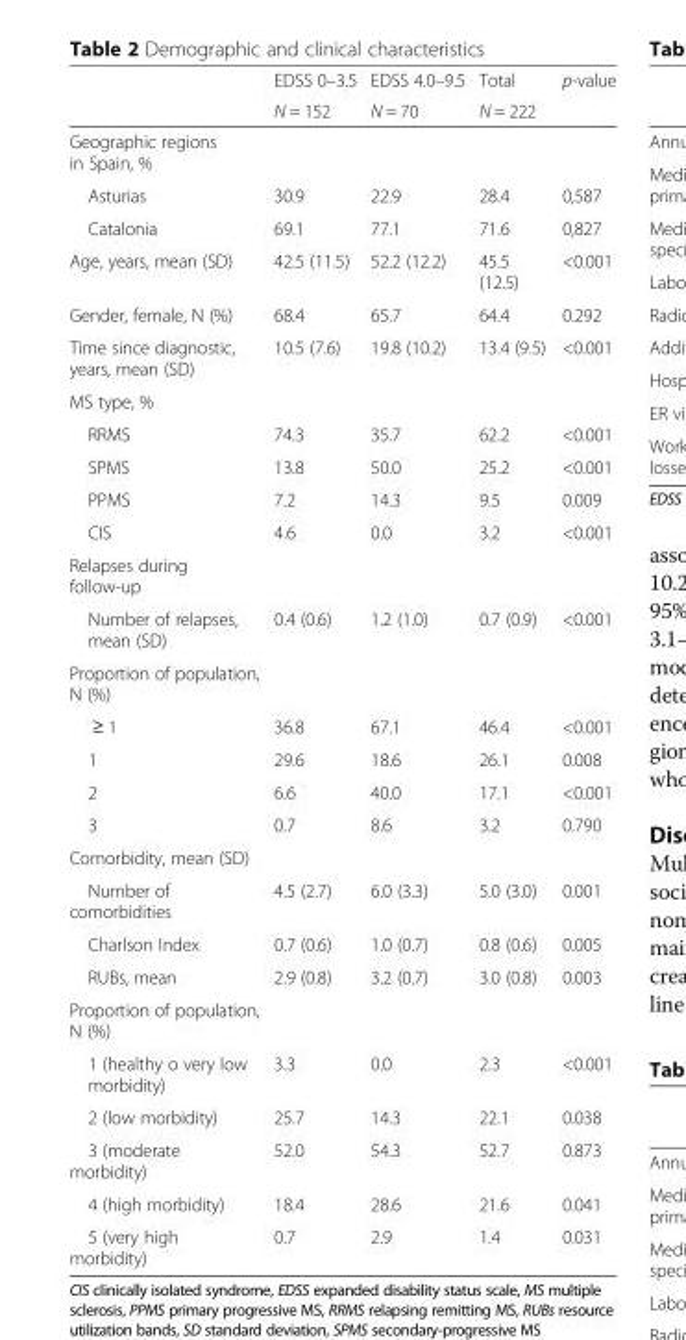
<table><thead><tr><td rowspan="2"></td><td rowspan="2">EDSS 0–3.5 N = 152</td><td rowspan="2">EDSS 4.0–9.5 N = 70</td><td rowspan="2">Total N = 222</td><td rowspan="2">p-value</td></tr><tr></tr></thead><tbody><tr><td colspan="5">Geographic regions in Spain, %</td></tr><tr><td>Asturias</td><td>30.9</td><td>22.9</td><td>28.4</td><td>0,587</td></tr><tr><td>Catalonia</td><td>69.1</td><td>77.1</td><td>71.6</td><td>0,827</td></tr><tr><td>Age, years, mean (SD)</td><td>42.5 (11.5)</td><td>52.2 (12.2)</td><td>45.5 (12.5)</td><td>&lt;0.001</td></tr><tr><td>Gender, female, N (%)</td><td>68.4</td><td>65.7</td><td>64.4</td><td>0.292</td></tr><tr><td>Time since diagnostic, years, mean (SD)</td><td>10.5 (7.6)</td><td>19.8 (10.2)</td><td>13.4 (9.5)</td><td>&lt;0.001</td></tr><tr><td colspan="5">MS type, %</td></tr><tr><td>RRMS</td><td>74.3</td><td>35.7</td><td>62.2</td><td>&lt;0.001</td></tr><tr><td>SPMS</td><td>13.8</td><td>50.0</td><td>25.2</td><td>&lt;0.001</td></tr><tr><td>PPMS</td><td>7.2</td><td>14.3</td><td>9.5</td><td>0.009</td></tr><tr><td>CIS</td><td>4.6</td><td>0.0</td><td>3.2</td><td>&lt;0.001</td></tr><tr><td colspan="5">Relapses during follow-up</td></tr><tr><td>Number of relapses, mean (SD)</td><td>0.4 (0.6)</td><td>1.2 (1.0)</td><td>0.7 (0.9)</td><td>&lt;0.001</td></tr><tr><td colspan="5">Proportion of population, N (%)</td></tr><tr><td>≥ 1</td><td>36.8</td><td>67.1</td><td>46.4</td><td>&lt;0.001</td></tr><tr><td>1</td><td>29.6</td><td>18.6</td><td>26.1</td><td>0.008</td></tr><tr><td>2</td><td>6.6</td><td>40.0</td><td>17.1</td><td>&lt;0.001</td></tr><tr><td>3</td><td>0.7</td><td>8.6</td><td>3.2</td><td>0.790</td></tr><tr><td colspan="5">Comorbidity, mean (SD)</td></tr><tr><td>Number of comorbidities</td><td>4.5 (2.7)</td><td>6.0 (3.3)</td><td>5.0 (3.0)</td><td>0.001</td></tr><tr><td>Charlson Index</td><td>0.7 (0.6)</td><td>1.0 (0.7)</td><td>0.8 (0.6)</td><td>0.005</td></tr><tr><td>RUBs, mean</td><td>2.9 (0.8)</td><td>3.2 (0.7)</td><td>3.0 (0.8)</td><td>0.003</td></tr><tr><td colspan="5">Proportion of population, N (%)</td></tr><tr><td>1 (healthy o very low morbidity)</td><td>3.3</td><td>0.0</td><td>2.3</td><td>&lt;0.001</td></tr><tr><td>2 (low morbidity)</td><td>25.7</td><td>14.3</td><td>22.1</td><td>0.038</td></tr><tr><td>3 (moderate morbidity)</td><td>52.0</td><td>54.3</td><td>52.7</td><td>0.873</td></tr><tr><td>4 (high morbidity)</td><td>18.4</td><td>28.6</td><td>21.6</td><td>0.041</td></tr><tr><td>5 (very high morbidity)</td><td>0.7</td><td>2.9</td><td>1.4</td><td>0.031</td></tr></tbody></table>